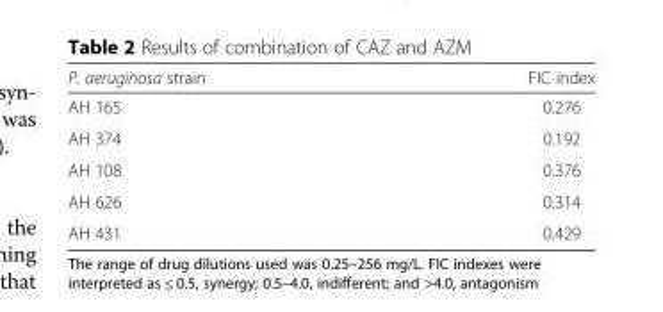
<table><thead><tr><td>P. aeruginosa strain</td><td>FIC index</td></tr></thead><tbody><tr><td>AH 165</td><td>0.276</td></tr><tr><td>AH 374</td><td>0.192</td></tr><tr><td>AH 108</td><td>0.376</td></tr><tr><td>AH 626</td><td>0.314</td></tr><tr><td>AH 431</td><td>0.429</td></tr></tbody></table>